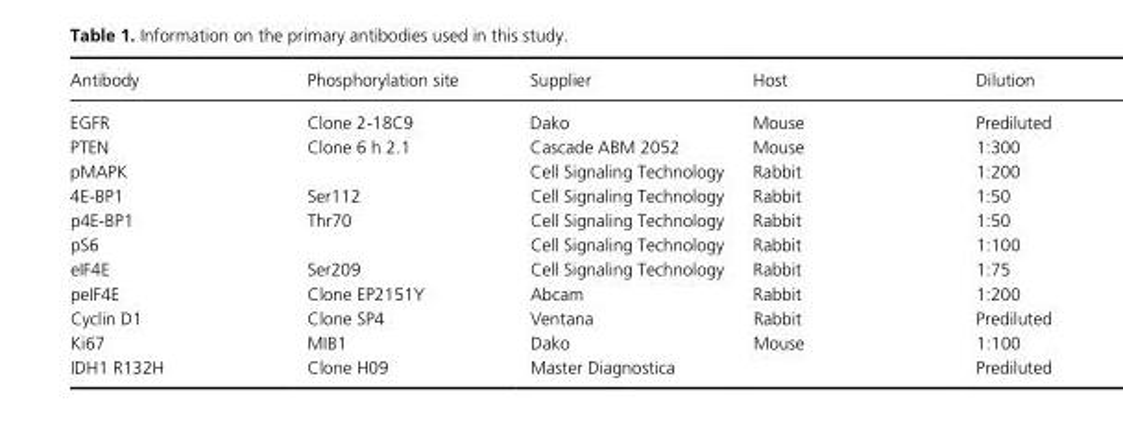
<table><thead><tr><td>Antibody</td><td>Phosphorylation site</td><td>Supplier</td><td>Host</td><td>Dilution</td></tr></thead><tbody><tr><td>EGFR</td><td>Clone 2- 18C9</td><td>Dako</td><td>Mouse</td><td>Prediluted</td></tr><tr><td>PTEN</td><td>Clone 6 h 2.1</td><td>Cascade ABM 2052</td><td>Mouse</td><td>1:300</td></tr><tr><td>pMAPK</td><td></td><td>Cell Signaling Technology</td><td>Rabbit</td><td>1:200</td></tr><tr><td>4E- BP1</td><td>Ser112</td><td>Cell Signaling Technology</td><td>Rabbit</td><td>1:50</td></tr><tr><td>p4E- BP1</td><td>Thr70</td><td>Cell Signaling Technology</td><td>Rabbit</td><td>1:50</td></tr><tr><td>pS6</td><td></td><td>Cell Signaling Technology</td><td>Rabbit</td><td>1:100</td></tr><tr><td>eIF4E</td><td>Ser209</td><td>Cell Signaling Technology</td><td>Rabbit</td><td>1:75</td></tr><tr><td>peIF4E</td><td>Clone EP2151Y</td><td>Abcam</td><td>Rabbit</td><td>1:200</td></tr><tr><td>Cyclin D1</td><td>Clone SP4</td><td>Ventana</td><td>Rabbit</td><td>Prediluted</td></tr><tr><td>Ki67</td><td>MIB1</td><td>Dako</td><td>Mouse</td><td>1:100</td></tr><tr><td>IDH1 R132H</td><td>Clone H09</td><td>Master Diagnostica</td><td></td><td>Prediluted</td></tr></tbody></table>